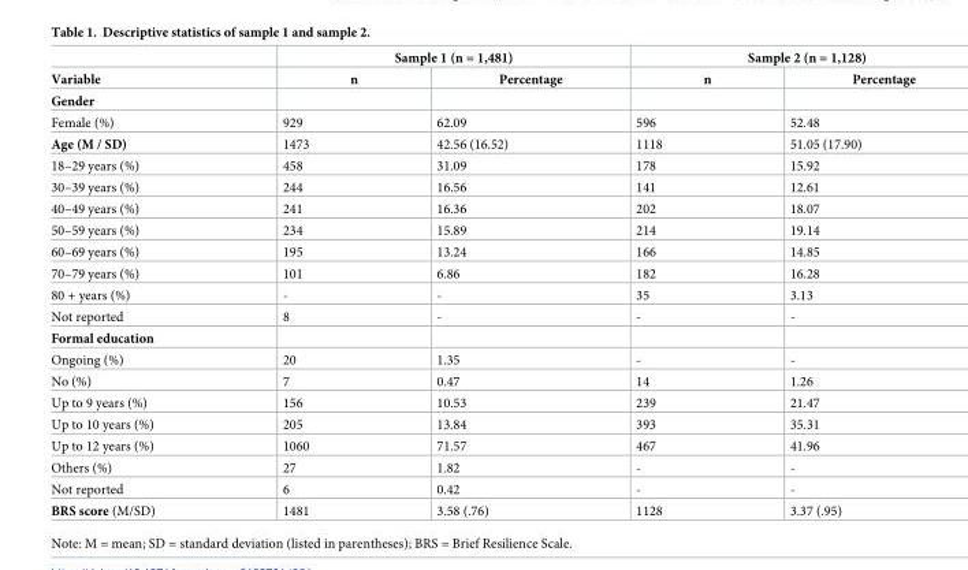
<table><thead><tr><td rowspan="2">Variable</td><td colspan="2">Sample 1 (n = 1,481)</td><td colspan="2">Sample 2 (n = 1,128)</td></tr><tr><td>n</td><td>Percentage</td><td>n</td><td>Percentage</td></tr></thead><tbody><tr><td colspan="5">Gender</td></tr><tr><td>Female (%)</td><td>929</td><td>62.09</td><td>596</td><td>52.48</td></tr><tr><td>Age (M / SD)</td><td>1473</td><td>42.56 (16.52)</td><td>1118</td><td>51.05 (17.90)</td></tr><tr><td>18–29 years (%)</td><td>458</td><td>31.09</td><td>178</td><td>15.92</td></tr><tr><td>30–39 years (%)</td><td>244</td><td>16.56</td><td>141</td><td>12.61</td></tr><tr><td>40–49 years (%)</td><td>241</td><td>16.36</td><td>202</td><td>18.07</td></tr><tr><td>50–59 years (%)</td><td>234</td><td>15.89</td><td>214</td><td>19.14</td></tr><tr><td>60–69 years (%)</td><td>195</td><td>13.24</td><td>166</td><td>14.85</td></tr><tr><td>70–79 years (%)</td><td>101</td><td>6.86</td><td>182</td><td>16.28</td></tr><tr><td>80 + years (%)</td><td>-</td><td>-</td><td>35</td><td>3.13</td></tr><tr><td>Not reported</td><td>8</td><td>-</td><td>-</td><td>-</td></tr><tr><td colspan="5">Formal education</td></tr><tr><td>Ongoing (%)</td><td>20</td><td>1.35</td><td>-</td><td>-</td></tr><tr><td>No (%)</td><td>7</td><td>0.47</td><td>14</td><td>1.26</td></tr><tr><td>Up to 9 years (%)</td><td>156</td><td>10.53</td><td>239</td><td>21.47</td></tr><tr><td>Up to 10 years (%)</td><td>205</td><td>13.84</td><td>393</td><td>35.31</td></tr><tr><td>Up to 12 years (%)</td><td>1060</td><td>71.57</td><td>467</td><td>41.96</td></tr><tr><td>Others (%)</td><td>27</td><td>1.82</td><td>-</td><td>-</td></tr><tr><td>Not reported</td><td>6</td><td>0.42</td><td>-</td><td>-</td></tr><tr><td>BRS score (M/SD)</td><td>1481</td><td>3.58 (.76)</td><td>1128</td><td>3.37 (.95)</td></tr></tbody></table>